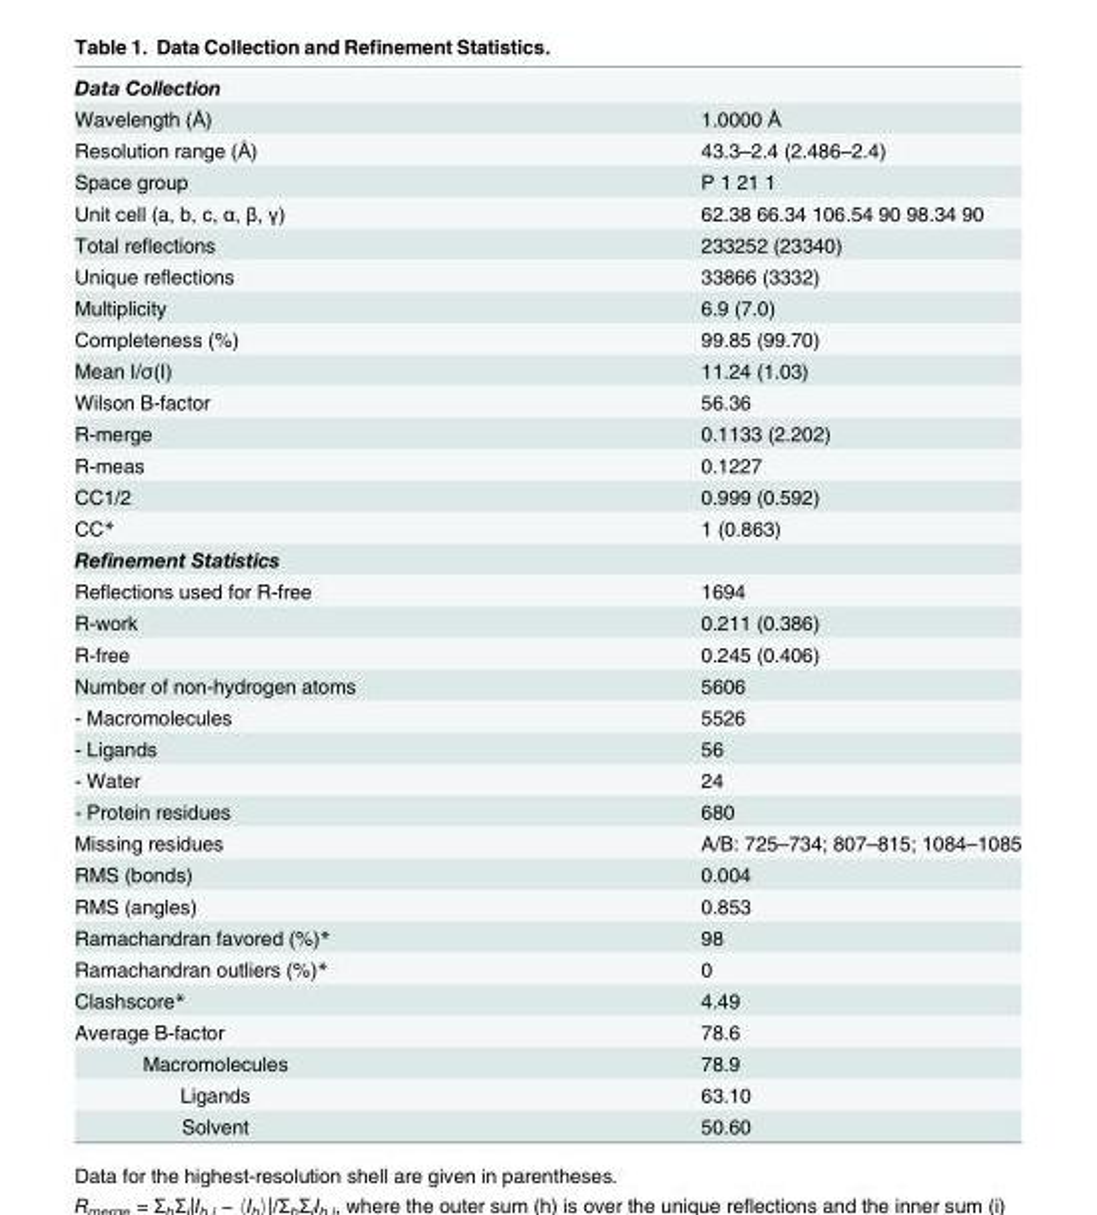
<table><tbody><tr><td colspan="2">Data Collection</td></tr><tr><td>Wavelength (Å)</td><td>1.0000 Å</td></tr><tr><td>Resolution range (Å)</td><td>43.3–2.4 (2.486–2.4)</td></tr><tr><td>Space group</td><td>P 1 21 1</td></tr><tr><td>Unit cell (a, b, c, α, β, γ)</td><td>62.38 66.34 106.54 90 98.34 90</td></tr><tr><td>Total reflections</td><td>233252 (23340)</td></tr><tr><td>Unique reflections</td><td>33866 (3332)</td></tr><tr><td>Multiplicity</td><td>6.9 (7.0)</td></tr><tr><td>Completeness (%)</td><td>99.85 (99.70)</td></tr><tr><td>Mean I/σ(I)</td><td>11.24 (1.03)</td></tr><tr><td>Wilson B-factor</td><td>56.36</td></tr><tr><td>R-merge</td><td>0.1133 (2.202)</td></tr><tr><td>R-meas</td><td>0.1227</td></tr><tr><td>CC1/2</td><td>0.999 (0.592)</td></tr><tr><td>CC*</td><td>1 (0.863)</td></tr><tr><td colspan="2">Refinement Statistics</td></tr><tr><td>Reflections used for R-free</td><td>1694</td></tr><tr><td>R-work</td><td>0.211 (0.386)</td></tr><tr><td>R-free</td><td>0.245 (0.406)</td></tr><tr><td>Number of non-hydrogen atoms</td><td>5606</td></tr><tr><td>- Macromolecules</td><td>5526</td></tr><tr><td>- Ligands</td><td>56</td></tr><tr><td>- Water</td><td>24</td></tr><tr><td>- Protein residues</td><td>680</td></tr><tr><td>Missing residues</td><td>A/B: 725–734; 807–815; 1084–1085</td></tr><tr><td>RMS (bonds)</td><td>0.004</td></tr><tr><td>RMS (angles)</td><td>0.853</td></tr><tr><td>Ramachandran favored (%)*</td><td>98</td></tr><tr><td>Ramachandran outliers (%)*</td><td>0</td></tr><tr><td>Clashscore*</td><td>4.49</td></tr><tr><td>Average B-factor</td><td>78.6</td></tr><tr><td>Macromolecules</td><td>78.9</td></tr><tr><td>Ligands</td><td>63.10</td></tr><tr><td>Solvent</td><td>50.60</td></tr></tbody></table>